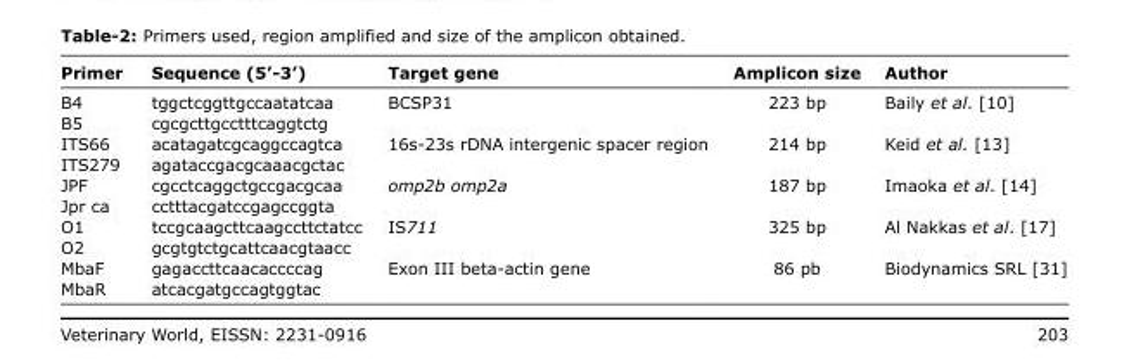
<table><thead><tr><td>Primer</td><td>Sequence (5’-3’)</td><td>Target gene</td><td>Amplicon size</td><td>Author</td></tr></thead><tbody><tr><td>B4</td><td>tggctcggttgccaatatcaa</td><td>BCSP31</td><td>223 bp</td><td>Baily et al. [10]</td></tr><tr><td>B5</td><td>cgcgcttgcctttcaggtctg</td><td></td><td></td><td></td></tr><tr><td>ITS66</td><td>acatagatcgcaggccagtca</td><td>16s-23s rDNA intergenic spacer region</td><td>214 bp</td><td>Keid et al. [13]</td></tr><tr><td>ITS279</td><td>agataccgacgcaaacgctac</td><td></td><td></td><td></td></tr><tr><td>JPF</td><td>cgcctcaggctgccgacgcaa</td><td>omp2b omp2a</td><td rowspan="2">187 bp</td><td>Imaoka et al. [14]</td></tr><tr><td>Jpr ca</td><td>cctttacgatccgagccggta</td><td></td><td></td></tr><tr><td>O1</td><td>tccgcaagcttcaagccttctatcc</td><td>IS711</td><td>325 bp</td><td>Al Nakkas et al. [17]</td></tr><tr><td>O2</td><td>gcgtgtctgcattcaacgtaacc</td><td></td><td></td><td></td></tr><tr><td>MbaF</td><td>gagaccttcaacaccccag</td><td>Exon III beta-actin gene</td><td>86 pb</td><td>Biodynamics SRL [31]</td></tr><tr><td>MbaR</td><td>atcacgatgccagtggtac</td><td></td><td></td><td></td></tr></tbody></table>